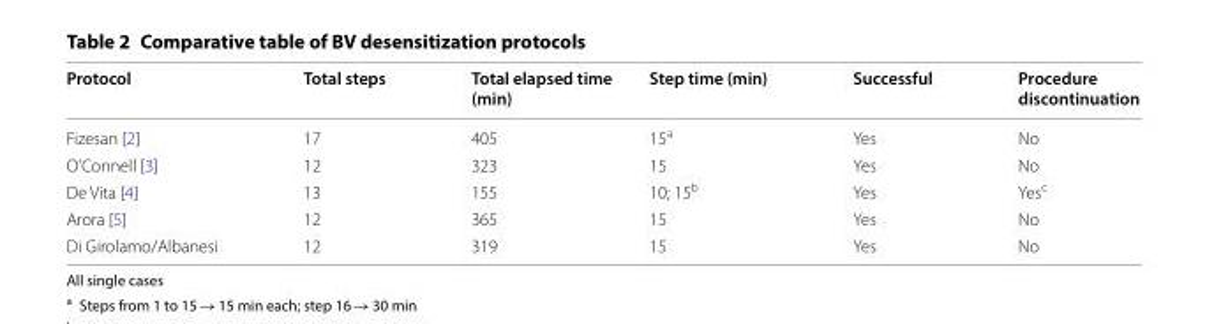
<table><thead><tr><td>Protocol</td><td>Total steps</td><td>Total elapsed time (min)</td><td>Step time (min)</td><td>Successful</td><td>Procedure discontinuation</td></tr></thead><tbody><tr><td>Fizesan [2]</td><td>17</td><td>405</td><td>15<sup>a</sup></td><td>Yes</td><td>No</td></tr><tr><td>O’Connell [3]</td><td>12</td><td>323</td><td>15</td><td>Yes</td><td>No</td></tr><tr><td>De Vita [4]</td><td>13</td><td>155</td><td>10; 15<sup>b</sup></td><td>Yes</td><td>Yes<sup>c</sup></td></tr><tr><td>Arora [5]</td><td>12</td><td>365</td><td>15</td><td>Yes</td><td>No</td></tr><tr><td>Di Girolamo/Albanesi</td><td>12</td><td>319</td><td>15</td><td>Yes</td><td>No</td></tr></tbody></table>